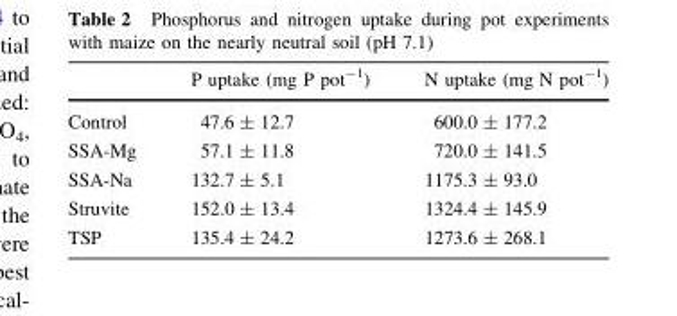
<table><thead><tr><td></td><td>P uptake (mg P pot<sup>-1</sup>)</td><td>N uptake (mg N pot<sup>-1</sup>)</td></tr></thead><tbody><tr><td>Control</td><td>47.6 ± 12.7</td><td>600.0 ± 177.2</td></tr><tr><td>SSA-Mg</td><td>57.1 ± 11.8</td><td>720.0 ± 141.5</td></tr><tr><td>SSA-Na</td><td>132.7 ± 5.1</td><td>1175.3 ± 93.0</td></tr><tr><td>Struvite</td><td>152.0 ± 13.4</td><td>1324.4 ± 145.9</td></tr><tr><td>TSP</td><td>135.4 ± 24.2</td><td>1273.6 ± 268.1</td></tr></tbody></table>